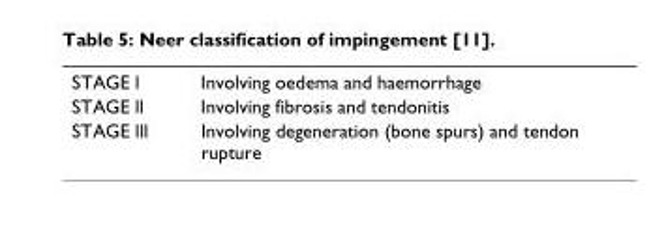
<table><tbody><tr><td>STAGE l</td><td>Involving oedema and haemorrhage</td></tr><tr><td>STAGE ll</td><td>Involving fibrosis and tendonitis</td></tr><tr><td>STAGE lll</td><td>Involving degeneration (bone spurs) and tendon rupture</td></tr></tbody></table>